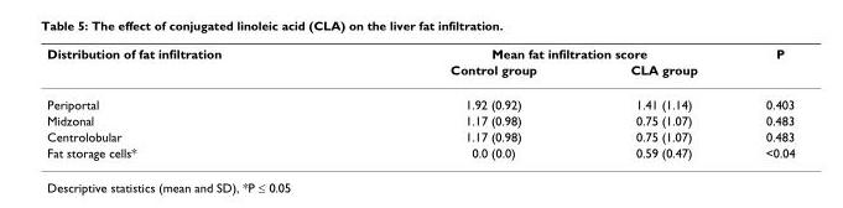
<table><thead><tr><td rowspan="2">Distribution of fat infiltration</td><td colspan="2">Mean fat infiltration score</td><td rowspan="2">P</td></tr><tr><td>Control group</td><td>CLA group</td></tr></thead><tbody><tr><td>Periportal</td><td>1.92 (0.92)</td><td>1.41 (1.14)</td><td>0.403</td></tr><tr><td>Midzonal</td><td>1.17 (0.98)</td><td>0.75 (1.07)</td><td>0.483</td></tr><tr><td>Centrolobular</td><td>1.17 (0.98)</td><td>0.75 (1.07)</td><td>0.483</td></tr><tr><td>Fat storage cells*</td><td>0.0 (0.0)</td><td>0.59 (0.47)</td><td>&lt;0.04</td></tr></tbody></table>